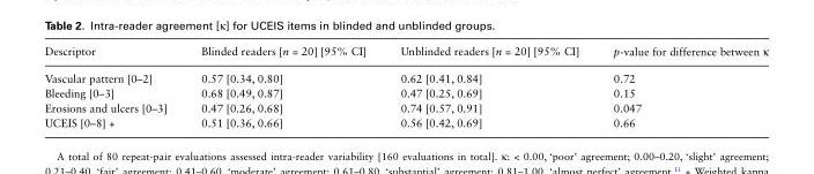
<table><thead><tr><td>Descriptor</td><td>Blinded readers [n = 20] [95% CI]</td><td>Unblinded readers [n = 20] [95% CI]</td><td>p-value for difference between κ</td></tr></thead><tbody><tr><td>Vascular pattern [0–2]</td><td>0.57 [0.34, 0.80]</td><td>0.62 [0.41, 0.84]</td><td>0.72</td></tr><tr><td>Bleeding [0–3]</td><td>0.68 [0.49, 0.87]</td><td>0.47 [0.25, 0.69]</td><td>0.15</td></tr><tr><td>Erosions and ulcers [0–3]</td><td>0.47 [0.26, 0.68]</td><td>0.74 [0.57, 0.91]</td><td>0.047</td></tr><tr><td>UCEIS [0–8] +</td><td>0.51 [0.36, 0.66]</td><td>0.56 [0.42, 0.69]</td><td>0.66</td></tr></tbody></table>